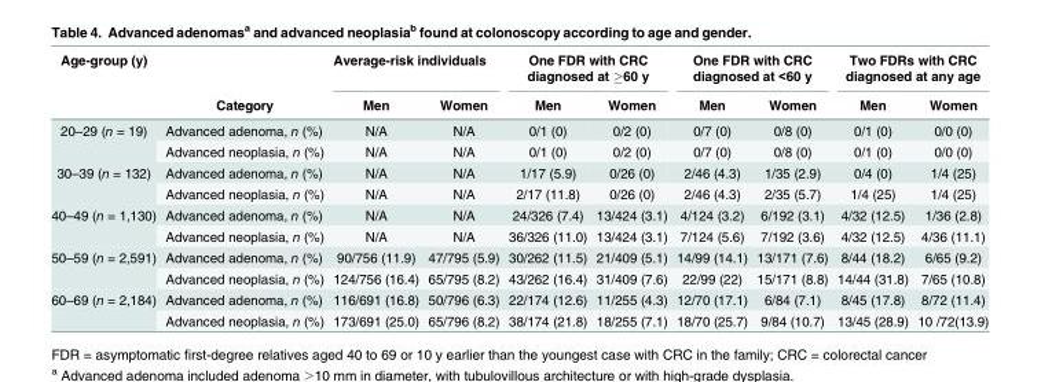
<table><thead><tr><td rowspan="2">Age-group (y)</td><td rowspan="2">Category</td><td colspan="2">Average-risk individuals</td><td colspan="2">One FDR with CRC diagnosed at ≥60 y</td><td colspan="2">One FDR with CRC diagnosed at &lt;60 y</td><td colspan="2">Two FDRs with CRC diagnosed at any age</td></tr><tr><td>Men</td><td>Women</td><td>Men</td><td>Women</td><td>Men</td><td>Women</td><td>Men</td><td>Women</td></tr></thead><tbody><tr><td rowspan="2">20–29 (n = 19)</td><td>Advanced adenoma, n (%)</td><td>N/A</td><td>N/A</td><td>0/1 (0)</td><td>0/2 (0)</td><td>0/7 (0)</td><td>0/8 (0)</td><td>0/1 (0)</td><td>0/0 (0)</td></tr><tr><td>Advanced neoplasia, n (%)</td><td>N/A</td><td>N/A</td><td>0/1 (0)</td><td>0/2 (0)</td><td>0/7 (0)</td><td>0/8 (0)</td><td>0/1 (0)</td><td>0/0 (0)</td></tr><tr><td rowspan="2">30–39 (n = 132)</td><td>Advanced adenoma, n (%)</td><td>N/A</td><td>N/A</td><td>1/17 (5.9)</td><td>0/26 (0)</td><td>2/46 (4.3)</td><td>1/35 (2.9)</td><td>0/4 (0)</td><td>1/4 (25)</td></tr><tr><td>Advanced neoplasia, n (%)</td><td>N/A</td><td>N/A</td><td>2/17 (11.8)</td><td>0/26 (0)</td><td>2/46 (4.3)</td><td>2/35 (5.7)</td><td>1/4 (25)</td><td>1/4 (25)</td></tr><tr><td rowspan="2">40–49 (n = 1,130)</td><td>Advanced adenoma, n (%)</td><td>N/A</td><td>N/A</td><td>24/326 (7.4)</td><td>13/424 (3.1)</td><td>4/124 (3.2)</td><td>6/192 (3.1)</td><td>4/32 (12.5)</td><td>1/36 (2.8)</td></tr><tr><td>Advanced neoplasia, n (%)</td><td>N/A</td><td>N/A</td><td>36/326 (11.0)</td><td>13/424 (3.1)</td><td>7/124 (5.6)</td><td>7/192 (3.6)</td><td>4/32 (12.5)</td><td>4/36 (11.1)</td></tr><tr><td rowspan="2">50–59 (n = 2,591)</td><td>Advanced adenoma, n (%)</td><td>90/756 (11.9)</td><td>47/795 (5.9)</td><td>30/262 (11.5)</td><td>21/409 (5.1)</td><td>14/99 (14.1)</td><td>13/171 (7.6)</td><td>8/44 (18.2)</td><td>6/65 (9.2)</td></tr><tr><td>Advanced neoplasia, n (%)</td><td>124/756 (16.4)</td><td>65/795 (8.2)</td><td>43/262 (16.4)</td><td>31/409 (7.6)</td><td>22/99 (22)</td><td>15/171 (8.8)</td><td>14/44 (31.8)</td><td>7/65 (10.8)</td></tr><tr><td rowspan="2">60–69 (n = 2,184)</td><td>Advanced adenoma, n (%)</td><td>116/691 (16.8)</td><td>50/796 (6.3)</td><td>22/174 (12.6)</td><td>11/255 (4.3)</td><td>12/70 (17.1)</td><td>6/84 (7.1)</td><td>8/45 (17.8)</td><td>8/72 (11.4)</td></tr><tr><td>Advanced neoplasia, n (%)</td><td>173/691 (25.0)</td><td>65/796 (8.2)</td><td>38/174 (21.8)</td><td>18/255 (7.1)</td><td>18/70 (25.7)</td><td>9/84 (10.7)</td><td>13/45 (28.9)</td><td>10 /72(13.9)</td></tr></tbody></table>